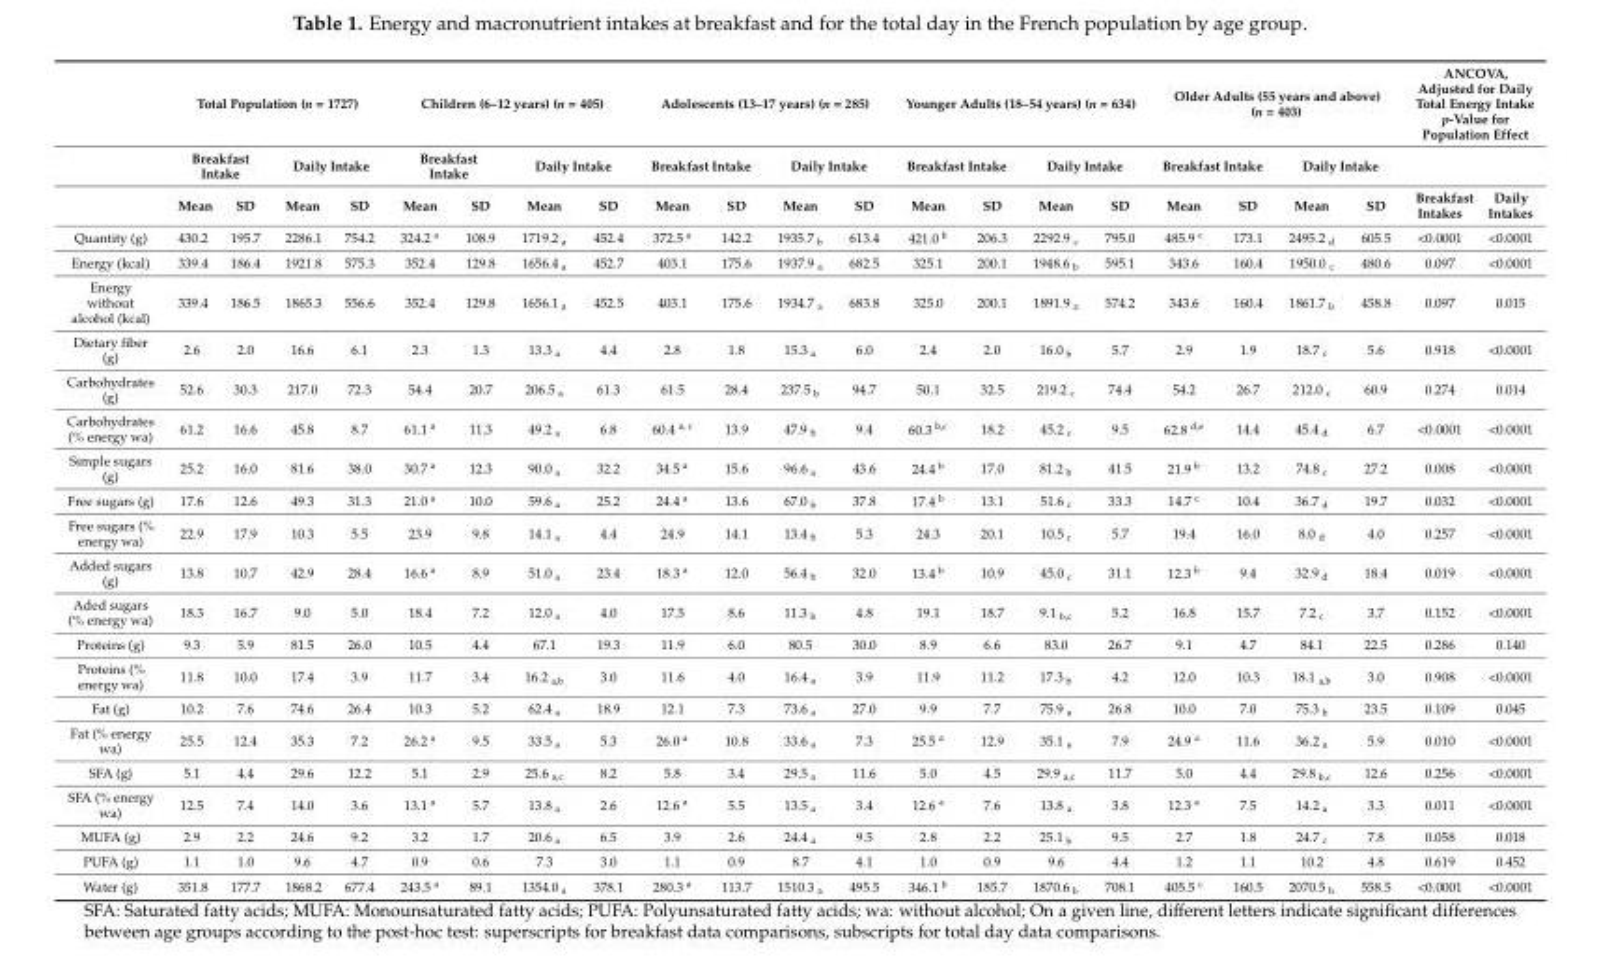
<table><thead><tr><td rowspan="3"></td><td colspan="4">Total Population (n = 1727)</td><td colspan="4">Children (6–12 years) (n = 405)</td><td colspan="4">Adolescents (13–17 years) (n = 285)</td><td colspan="4">Younger Adults (18–54 years) (n = 634)</td><td colspan="4">Older Adults (55 years and above) (n = 403)</td><td colspan="2">ANCOVA, Adjusted for Daily Total Energy Intake p-Value for Population Effect</td></tr><tr><td colspan="2">Breakfast Intake</td><td colspan="2">Daily Intake</td><td colspan="2">Breakfast Intake</td><td colspan="2">Daily Intake</td><td colspan="2">Breakfast Intake</td><td colspan="2">Daily Intake</td><td colspan="2">Breakfast Intake</td><td colspan="2">Daily Intake</td><td colspan="2">Breakfast Intake</td><td colspan="2">Daily Intake</td><td rowspan="2">Breakfast Intakes</td><td rowspan="2">Daily Intakes</td></tr><tr><td>Mean</td><td>SD</td><td>Mean</td><td>SD</td><td>Mean</td><td>SD</td><td>Mean</td><td>SD</td><td>Mean</td><td>SD</td><td>Mean</td><td>SD</td><td>Mean</td><td>SD</td><td>Mean</td><td>SD</td><td>Mean</td><td>SD</td><td>Mean</td><td>SD</td></tr></thead><tbody><tr><td>Quantity (g)</td><td>430.2</td><td>195.7</td><td>2286.1</td><td>754.2</td><td>324.2 <sup>a</sup></td><td>108.9</td><td>1719.2 <sub>a</sub></td><td>452.4</td><td>372.5 <sup>a</sup></td><td>142.2</td><td>1935.7 <sub>b</sub></td><td>613.4</td><td>421.0 <sup>b</sup></td><td>206.3</td><td>2292.9 <sub>c</sub></td><td>795.0</td><td>485.9 <sup>c</sup></td><td>173.1</td><td>2495.2 <sub>d</sub></td><td>605.5</td><td>&lt;0.0001</td><td>&lt;0.0001</td></tr><tr><td>Energy (kcal)</td><td>339.4</td><td>186.4</td><td>1921.8</td><td>575.3</td><td>352.4</td><td>129.8</td><td>1656.4 <sub>a</sub></td><td>452.7</td><td>403.1</td><td>175.6</td><td>1937.9 <sub>a</sub></td><td>682.5</td><td>325.1</td><td>200.1</td><td>1948.6 <sub>b</sub></td><td>595.1</td><td>343.6</td><td>160.4</td><td>1950.0 <sub>c</sub></td><td>480.6</td><td>0.097</td><td>&lt;0.0001</td></tr><tr><td>Energy without alcohol (kcal)</td><td>339.4</td><td>186.5</td><td>1865.3</td><td>556.6</td><td>352.4</td><td>129.8</td><td>1656.1 <sub>a</sub></td><td>452.5</td><td>403.1</td><td>175.6</td><td>1934.7 <sub>a</sub></td><td>683.8</td><td>325.0</td><td>200.1</td><td>1891.9 <sub>a</sub></td><td>574.2</td><td>343.6</td><td>160.4</td><td>1861.7 <sub>b</sub></td><td>458.8</td><td>0.097</td><td>0.015</td></tr><tr><td>Dietary fiber (g)</td><td>2.6</td><td>2.0</td><td>16.6</td><td>6.1</td><td>2.3</td><td>1.3</td><td>13.3 <sub>a</sub></td><td>4.4</td><td>2.8</td><td>1.8</td><td>15.3 <sub>a</sub></td><td>6.0</td><td>2.4</td><td>2.0</td><td>16.0 <sub>b</sub></td><td>5.7</td><td>2.9</td><td>1.9</td><td>18.7 <sub>c</sub></td><td>5.6</td><td>0.918</td><td>&lt;0.0001</td></tr><tr><td>Carbohydrates (g)</td><td>52.6</td><td>30.3</td><td>217.0</td><td>72.3</td><td>54.4</td><td>20.7</td><td>206.5 <sub>a</sub></td><td>61.3</td><td>61.5</td><td>28.4</td><td>237.5 <sub>b</sub></td><td>94.7</td><td>50.1</td><td>32.5</td><td>219.2 <sub>c</sub></td><td>74.4</td><td>54.2</td><td>26.7</td><td>212.0 <sub>c</sub></td><td>60.9</td><td>0.274</td><td>0.014</td></tr><tr><td>Carbohydrates (% energy wa)</td><td>61.2</td><td>16.6</td><td>45.8</td><td>8.7</td><td>61.1 <sup>a</sup></td><td>11.3</td><td>49.2 <sub>a</sub></td><td>6.8</td><td>60.4 <sup>a, c</sup></td><td>13.9</td><td>47.9 <sub>b</sub></td><td>9.4</td><td>60.3 <sup>b,c</sup></td><td>18.2</td><td>45.2 <sub>c</sub></td><td>9.5</td><td>62.8 <sup>d,e</sup></td><td>14.4</td><td>45.4 <sub>d</sub></td><td>6.7</td><td>&lt;0.0001</td><td>&lt;0.0001</td></tr><tr><td>Simple sugars (g)</td><td>25.2</td><td>16.0</td><td>81.6</td><td>38.0</td><td>30.7 <sup>a</sup></td><td>12.3</td><td>90.0 <sub>a</sub></td><td>32.2</td><td>34.5 <sup>a</sup></td><td>15.6</td><td>96.6 <sub>a</sub></td><td>43.6</td><td>24.4 <sup>b</sup></td><td>17.0</td><td>81.2 <sub>b</sub></td><td>41.5</td><td>21.9 <sup>b</sup></td><td>13.2</td><td>74.8 <sub>c</sub></td><td>27.2</td><td>0.008</td><td>&lt;0.0001</td></tr><tr><td>Free sugars (g)</td><td>17.6</td><td>12.6</td><td>49.3</td><td>31.3</td><td>21.0 <sup>a</sup></td><td>10.0</td><td>59.6 <sub>a</sub></td><td>25.2</td><td>24.4 <sup>a</sup></td><td>13.6</td><td>67.0 <sub>b</sub></td><td>37.8</td><td>17.4 <sup>b</sup></td><td>13.1</td><td>51.6 <sub>c</sub></td><td>33.3</td><td>14.7 <sup>c</sup></td><td>10.4</td><td>36.7 <sub>d</sub></td><td>19.7</td><td>0.032</td><td>&lt;0.0001</td></tr><tr><td>Free sugars (% energy wa)</td><td>22.9</td><td>17.9</td><td>10.3</td><td>5.5</td><td>23.9</td><td>9.8</td><td>14.1 <sub>a</sub></td><td>4.4</td><td>24.9</td><td>14.1</td><td>13.4 <sub>b</sub></td><td>5.3</td><td>24.3</td><td>20.1</td><td>10.5 <sub>c</sub></td><td>5.7</td><td>19.4</td><td>16.0</td><td>8.0 <sub>d</sub></td><td>4.0</td><td>0.257</td><td>&lt;0.0001</td></tr><tr><td>Added sugars (g)</td><td>13.8</td><td>10.7</td><td>42.9</td><td>28.4</td><td>16.6 <sup>a</sup></td><td>8.9</td><td>51.0 <sub>a</sub></td><td>23.4</td><td>18.3 <sup>a</sup></td><td>12.0</td><td>56.4 <sub>b</sub></td><td>32.0</td><td>13.4 <sup>b</sup></td><td>10.9</td><td>45.0 <sub>c</sub></td><td>31.1</td><td>12.3 <sup>b</sup></td><td>9.4</td><td>32.9 <sub>d</sub></td><td>18.4</td><td>0.019</td><td>&lt;0.0001</td></tr><tr><td>Aded sugars (% energy wa)</td><td>18.3</td><td>16.7</td><td>9.0</td><td>5.0</td><td>18.4</td><td>7.2</td><td>12.0 <sub>a</sub></td><td>4.0</td><td>17.5</td><td>8.6</td><td>11.3 <sub>b</sub></td><td>4.8</td><td>19.1</td><td>18.7</td><td>9.1 <sub>b,c</sub></td><td>5.2</td><td>16.8</td><td>15.7</td><td>7.2 <sub>c</sub></td><td>3.7</td><td>0.152</td><td>&lt;0.0001</td></tr><tr><td>Proteins (g)</td><td>9.3</td><td>5.9</td><td>81.5</td><td>26.0</td><td>10.5</td><td>4.4</td><td>67.1</td><td>19.3</td><td>11.9</td><td>6.0</td><td>80.5</td><td>30.0</td><td>8.9</td><td>6.6</td><td>83.0</td><td>26.7</td><td>9.1</td><td>4.7</td><td>84.1</td><td>22.5</td><td>0.286</td><td>0.140</td></tr><tr><td>Proteins (% energy wa)</td><td>11.8</td><td>10.0</td><td>17.4</td><td>3.9</td><td>11.7</td><td>3.4</td><td>16.2 <sub>a,b</sub></td><td>3.0</td><td>11.6</td><td>4.0</td><td>16.4 <sub>a</sub></td><td>3.9</td><td>11.9</td><td>11.2</td><td>17.3 <sub>b</sub></td><td>4.2</td><td>12.0</td><td>10.3</td><td>18.1 <sub>a,b</sub></td><td>3.0</td><td>0.908</td><td>&lt;0.0001</td></tr><tr><td>Fat (g)</td><td>10.2</td><td>7.6</td><td>74.6</td><td>26.4</td><td>10.3</td><td>5.2</td><td>62.4 <sub>a</sub></td><td>18.9</td><td>12.1</td><td>7.3</td><td>73.6 <sub>a</sub></td><td>27.0</td><td>9.9</td><td>7.7</td><td>75.9 <sub>a</sub></td><td>26.8</td><td>10.0</td><td>7.0</td><td>75.3 <sub>b</sub></td><td>23.5</td><td>0.109</td><td>0.045</td></tr><tr><td>Fat (% energy wa)</td><td>25.5</td><td>12.4</td><td>35.3</td><td>7.2</td><td>26.2 <sup>a</sup></td><td>9.5</td><td>33.5 <sub>a</sub></td><td>5.3</td><td>26.0 <sup>a</sup></td><td>10.8</td><td>33.6 <sub>a</sub></td><td>7.3</td><td>25.5 <sup>a</sup></td><td>12.9</td><td>35.1 <sub>a</sub></td><td>7.9</td><td>24.9 <sup>a</sup></td><td>11.6</td><td>36.2 <sub>a</sub></td><td>5.9</td><td>0.010</td><td>&lt;0.0001</td></tr><tr><td>SFA (g)</td><td>5.1</td><td>4.4</td><td>29.6</td><td>12.2</td><td>5.1</td><td>2.9</td><td>25.6 <sub>a,c</sub></td><td>8.2</td><td>5.8</td><td>3.4</td><td>29.5 <sub>a</sub></td><td>11.6</td><td>5.0</td><td>4.5</td><td>29.9 <sub>a,c</sub></td><td>11.7</td><td>5.0</td><td>4.4</td><td>29.8 <sub>b,c</sub></td><td>12.6</td><td>0.256</td><td>&lt;0.0001</td></tr><tr><td>SFA (% energy wa)</td><td>12.5</td><td>7.4</td><td>14.0</td><td>3.6</td><td>13.1 <sup>a</sup></td><td>5.7</td><td>13.8 <sub>a</sub></td><td>2.6</td><td>12.6 <sup>a</sup></td><td>5.5</td><td>13.5 <sub>a</sub></td><td>3.4</td><td>12.6 <sup>a</sup></td><td>7.6</td><td>13.8 <sub>a</sub></td><td>3.8</td><td>12.3 <sup>a</sup></td><td>7.5</td><td>14.2 <sub>a</sub></td><td>3.3</td><td>0.011</td><td>&lt;0.0001</td></tr><tr><td>MUFA (g)</td><td>2.9</td><td>2.2</td><td>24.6</td><td>9.2</td><td>3.2</td><td>1.7</td><td>20.6 <sub>a</sub></td><td>6.5</td><td>3.9</td><td>2.6</td><td>24.4 <sub>a</sub></td><td>9.5</td><td>2.8</td><td>2.2</td><td>25.1 <sub>b</sub></td><td>9.5</td><td>2.7</td><td>1.8</td><td>24.7 <sub>c</sub></td><td>7.8</td><td>0.058</td><td>0.018</td></tr><tr><td>PUFA (g)</td><td>1.1</td><td>1.0</td><td>9.6</td><td>4.7</td><td>0.9</td><td>0.6</td><td>7.3</td><td>3.0</td><td>1.1</td><td>0.9</td><td>8.7</td><td>4.1</td><td>1.0</td><td>0.9</td><td>9.6</td><td>4.4</td><td>1.2</td><td>1.1</td><td>10.2</td><td>4.8</td><td>0.619</td><td>0.452</td></tr><tr><td>Water (g)</td><td>351.8</td><td>177.7</td><td>1868.2</td><td>677.4</td><td>243.5 <sup>a</sup></td><td>89.1</td><td>1354.0 <sub>a</sub></td><td>378.1</td><td>280.3 <sup>a</sup></td><td>113.7</td><td>1510.3 <sub>a</sub></td><td>495.5</td><td>346.1 <sup>b</sup></td><td>185.7</td><td>1870.6 <sub>b</sub></td><td>708.1</td><td>405.5 <sup>c</sup></td><td>160.5</td><td>2070.5 <sub>b</sub></td><td>558.5</td><td>&lt;0.0001</td><td>&lt;0.0001</td></tr></tbody></table>